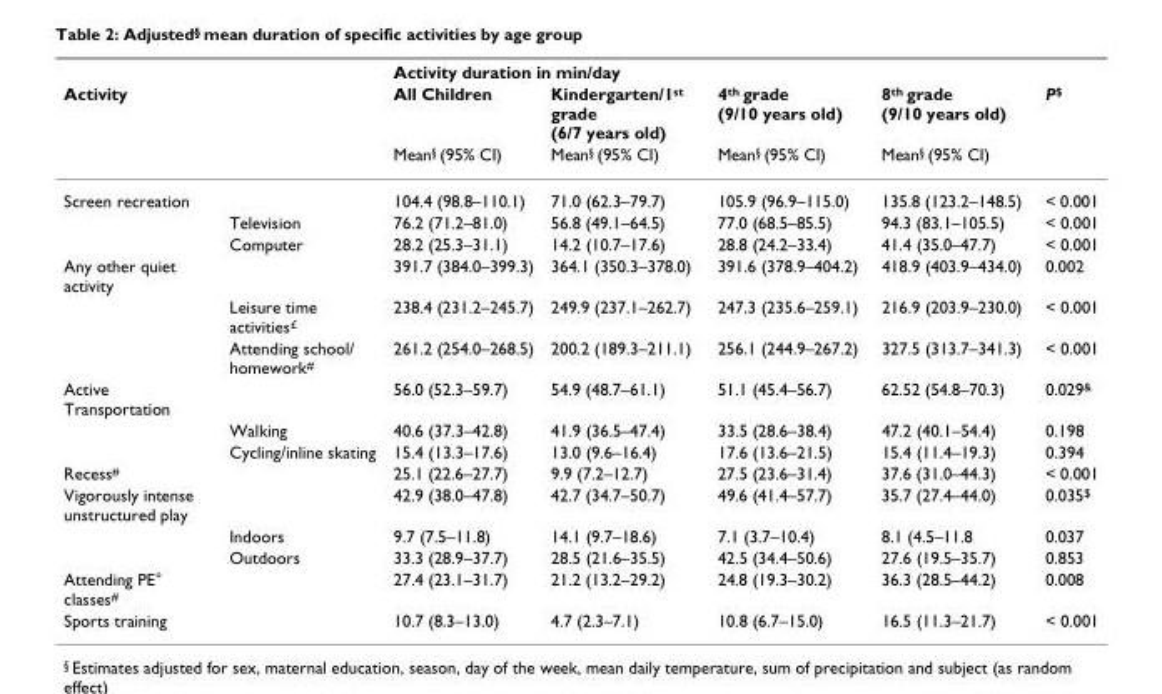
<table><thead><tr><td rowspan="3">Activity</td><td rowspan="3"></td><td colspan="5">Activity duration in min/day</td></tr><tr><td rowspan="2">All Children Mean<sup>§</sup> (95% CI)</td><td rowspan="2">Kindergarten/1<sup>st</sup> grade (6/7 years old) Mean<sup>§</sup> (95% CI)</td><td rowspan="2">4<sup>th</sup> grade (9/10 years old) Mean<sup>§</sup> (95% CI)</td><td rowspan="2">8<sup>th</sup> grade (9/10 years old) Mean<sup>§</sup> (95% CI)</td><td rowspan="2">P<sup>$</sup></td></tr><tr></tr></thead><tbody><tr><td rowspan="3">Screen recreation</td><td></td><td>104.4 (98.8–110.1)</td><td>71.0 (62.3–79.7)</td><td>105.9 (96.9–115.0)</td><td>135.8 (123.2–148.5)</td><td>&lt; 0.001</td></tr><tr><td>Television</td><td>76.2 (71.2–81.0)</td><td>56.8 (49.1–64.5)</td><td>77.0 (68.5–85.5)</td><td>94.3 (83.1–105.5)</td><td>&lt; 0.001</td></tr><tr><td>Computer</td><td>28.2 (25.3–31.1)</td><td>14.2 (10.7–17.6)</td><td>28.8 (24.2–33.4)</td><td>41.4 (35.0–47.7)</td><td>&lt; 0.001</td></tr><tr><td rowspan="3">Any other quiet activity</td><td></td><td>391.7 (384.0–399.3)</td><td>364.1 (350.3–378.0)</td><td>391.6 (378.9–404.2)</td><td>418.9 (403.9–434.0)</td><td>0.002</td></tr><tr><td>Leisure time activities<sup>£</sup></td><td>238.4 (231.2–245.7)</td><td>249.9 (237.1–262.7)</td><td>247.3 (235.6–259.1)</td><td>216.9 (203.9–230.0)</td><td>&lt; 0.001</td></tr><tr><td>Attending school/ homework<sup>#</sup></td><td>261.2 (254.0–268.5)</td><td>200.2 (189.3–211.1)</td><td>256.1 (244.9–267.2)</td><td>327.5 (313.7–341.3)</td><td>&lt; 0.001</td></tr><tr><td rowspan="3">Active Transportation</td><td></td><td>56.0 (52.3–59.7)</td><td>54.9 (48.7–61.1)</td><td>51.1 (45.4–56.7)</td><td>62.52 (54.8–70.3)</td><td>0.029<sup>&amp;</sup></td></tr><tr><td>Walking</td><td>40.6 (37.3–42.8)</td><td>41.9 (36.5–47.4)</td><td>33.5 (28.6–38.4)</td><td>47.2 (40.1–54.4)</td><td>0.198</td></tr><tr><td>Cycling/inline skating</td><td>15.4 (13.3–17.6)</td><td>13.0 (9.6–16.4)</td><td>17.6 (13.6–21.5)</td><td>15.4 (11.4–19.3)</td><td>0.394</td></tr><tr><td>Recess<sup>#</sup></td><td></td><td>25.1 (22.6–27.7)</td><td>9.9 (7.2–12.7)</td><td>27.5 (23.6–31.4)</td><td>37.6 (31.0–44.3)</td><td>&lt; 0.001</td></tr><tr><td rowspan="3">Vigorously intense unstructured play</td><td></td><td>42.9 (38.0–47.8)</td><td>42.7 (34.7–50.7)</td><td>49.6 (41.4–57.7)</td><td>35.7 (27.4–44.0)</td><td>0.035<sup>$</sup></td></tr><tr><td>Indoors</td><td>9.7 (7.5–11.8)</td><td>14.1 (9.7–18.6)</td><td>7.1 (3.7–10.4)</td><td>8.1 (4.5–11.8</td><td>0.037</td></tr><tr><td>Outdoors</td><td>33.3 (28.9–37.7)</td><td>28.5 (21.6–35.5)</td><td>42.5 (34.4–50.6)</td><td>27.6 (19.5–35.7)</td><td>0.853</td></tr><tr><td>Attending PE° classes<sup>#</sup></td><td></td><td>27.4 (23.1–31.7)</td><td>21.2 (13.2–29.2)</td><td>24.8 (19.3–30.2)</td><td>36.3 (28.5–44.2)</td><td>0.008</td></tr><tr><td>Sports training</td><td></td><td>10.7 (8.3–13.0)</td><td>4.7 (2.3–7.1)</td><td>10.8 (6.7–15.0)</td><td>16.5 (11.3–21.7)</td><td>&lt; 0.001</td></tr></tbody></table>